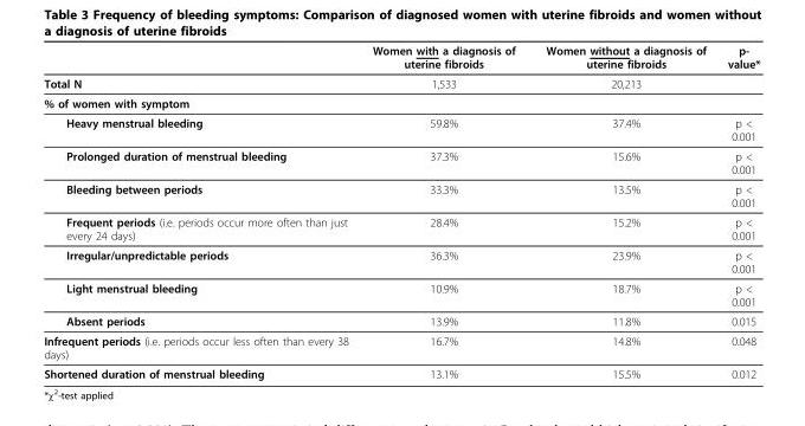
<table><thead><tr><td></td><td>Women with a diagnosis of uterine fibroids</td><td>Women without a diagnosis of uterine fibroids</td><td>p- value*</td></tr></thead><tbody><tr><td>Total N</td><td>1,533</td><td>20,213</td><td></td></tr><tr><td colspan="4">% of women with symptom</td></tr><tr><td>Heavy menstrual bleeding</td><td>59.8%</td><td>37.4%</td><td>p &lt; 0.001</td></tr><tr><td>Prolonged duration of menstrual bleeding</td><td>37.3%</td><td>15.6%</td><td>p &lt; 0.001</td></tr><tr><td>Bleeding between periods</td><td>33.3%</td><td>13.5%</td><td>p &lt; 0.001</td></tr><tr><td>Frequent periods (i.e. periods occur more often than just every 24 days)</td><td>28.4%</td><td>15.2%</td><td>p &lt; 0.001</td></tr><tr><td>Irregular/unpredictable periods</td><td>36.3%</td><td>23.9%</td><td>p &lt; 0.001</td></tr><tr><td>Light menstrual bleeding</td><td>10.9%</td><td>18.7%</td><td>p &lt; 0.001</td></tr><tr><td>Absent periods</td><td>13.9%</td><td>11.8%</td><td>0.015</td></tr><tr><td>Infrequent periods (i.e. periods occur less often than every 38 days)</td><td>16.7%</td><td>14.8%</td><td>0.048</td></tr><tr><td>Shortened duration of menstrual bleeding</td><td>13.1%</td><td>15.5%</td><td>0.012</td></tr></tbody></table>